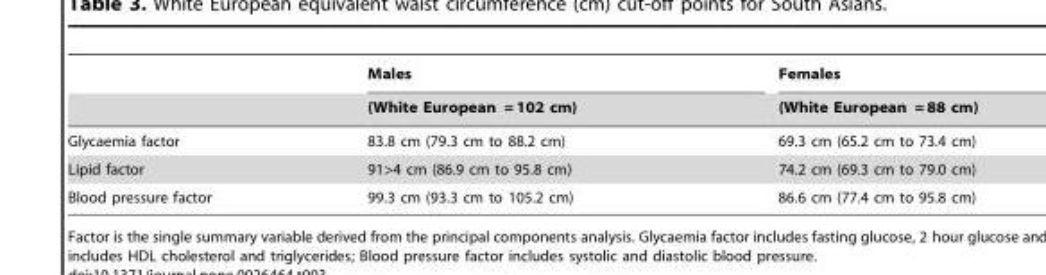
<table><thead><tr><td rowspan="2"></td><td rowspan="2">Males (White European = 102 cm)</td><td rowspan="2">Females (White European = 88 cm)</td></tr><tr></tr></thead><tbody><tr><td>Glycaemia factor</td><td>83.8 cm (79.3 cm to 88.2 cm)</td><td>69.3 cm (65.2 cm to 73.4 cm)</td></tr><tr><td>Lipid factor</td><td>91&gt;4 cm (86.9 cm to 95.8 cm)</td><td>74.2 cm (69.3 cm to 79.0 cm)</td></tr><tr><td>Blood pressure factor</td><td>99.3 cm (93.3 cm to 105.2 cm)</td><td>86.6 cm (77.4 cm to 95.8 cm)</td></tr></tbody></table>